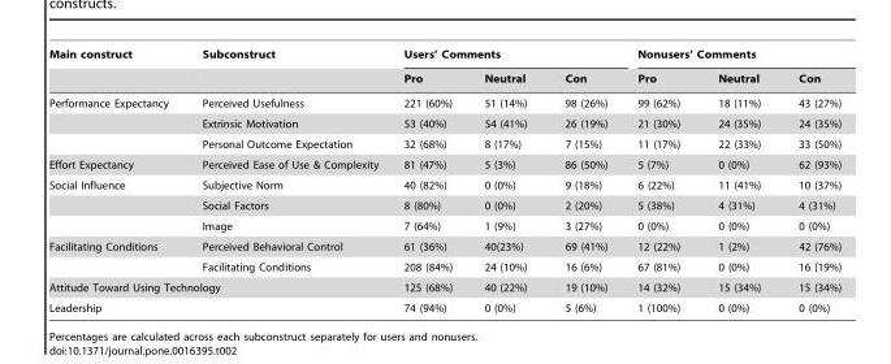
<table><thead><tr><td rowspan="2">Main construct</td><td rowspan="2">Subconstruct</td><td colspan="3">Users’ Comments</td><td colspan="3">Nonusers’ Comments</td></tr><tr><td>Pro</td><td>Neutral</td><td>Con</td><td>Pro</td><td>Neutral</td><td>Con</td></tr></thead><tbody><tr><td rowspan="3">Performance Expectancy</td><td>Perceived Usefulness</td><td>221 (60%)</td><td>51 (14%)</td><td>98 (26%)</td><td>99 (62%)</td><td>18 (11%)</td><td>43 (27%)</td></tr><tr><td>Extrinsic Motivation</td><td>53 (40%)</td><td>54 (41%)</td><td>26 (19%)</td><td>21 (30%)</td><td>24 (35%)</td><td>24 (35%)</td></tr><tr><td>Personal Outcome Expectation</td><td>32 (68%)</td><td>8 (17%)</td><td>7 (15%)</td><td>11 (17%)</td><td>22 (33%)</td><td>33 (50%)</td></tr><tr><td>Effort Expectancy</td><td>Perceived Ease of Use &amp; Complexity</td><td>81 (47%)</td><td>5 (3%)</td><td>86 (50%)</td><td>5 (7%)</td><td>0 (0%)</td><td>62 (93%)</td></tr><tr><td rowspan="3">Social Influence</td><td>Subjective Norm</td><td>40 (82%)</td><td>0 (0%)</td><td>9 (18%)</td><td>6 (22%)</td><td>11 (41%)</td><td>10 (37%)</td></tr><tr><td>Social Factors</td><td>8 (80%)</td><td>0 (0%)</td><td>2 (20%)</td><td>5 (38%)</td><td>4 (31%)</td><td>4 (31%)</td></tr><tr><td>Image</td><td>7 (64%)</td><td>1 (9%)</td><td>3 (27%)</td><td>0 (0%)</td><td>0 (0%)</td><td>0 (0%)</td></tr><tr><td rowspan="2">Facilitating Conditions</td><td>Perceived Behavioral Control</td><td>61 (36%)</td><td>40(23%)</td><td>69 (41%)</td><td>12 (22%)</td><td>1 (2%)</td><td>42 (76%)</td></tr><tr><td>Facilitating Conditions</td><td>208 (84%)</td><td>24 (10%)</td><td>16 (6%)</td><td>67 (81%)</td><td>0 (0%)</td><td>16 (19%)</td></tr><tr><td colspan="2">Attitude Toward Using Technology</td><td>125 (68%)</td><td>40 (22%)</td><td>19 (10%)</td><td>14 (32%)</td><td>15 (34%)</td><td>15 (34%)</td></tr><tr><td colspan="2">Leadership</td><td>74 (94%)</td><td>0 (0%)</td><td>5 (6%)</td><td>1 (100%)</td><td>0 (0%)</td><td>0 (0%)</td></tr></tbody></table>